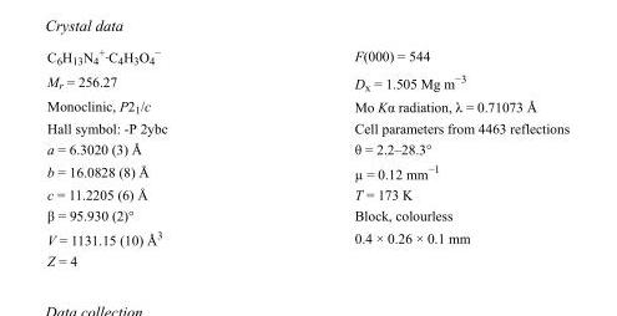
<table><tbody><tr><td>C<sub>6</sub>H<sub>13</sub>N<sub>4</sub> <sup>+</sup>·C<sub>4</sub>H<sub>3</sub>O<sub>4</sub> <sup>−</sup></td><td>F(000) = 544</td></tr><tr><td>M<sub>r</sub> = 256.27</td><td>D<sub>x</sub> = 1.505 Mg m<sup>−3</sup></td></tr><tr><td>Monoclinic, P2<sub>1</sub>/c</td><td>Mo Kα radiation, λ = 0.71073 Å</td></tr><tr><td>Hall symbol: -P 2ybc</td><td>Cell parameters from 4463 reflections</td></tr><tr><td>a = 6.3020 (3) Å</td><td>θ = 2.2–28.3°</td></tr><tr><td>b = 16.0828 (8) Å</td><td>µ = 0.12 mm<sup>−1</sup></td></tr><tr><td>c = 11.2205 (6) Å</td><td>T = 173 K</td></tr><tr><td>β = 95.930 (2)°</td><td>Block, colourless</td></tr><tr><td>V = 1131.15 (10) Å<sup>3</sup></td><td>0.4 × 0.26 × 0.1 mm</td></tr><tr><td>Z = 4</td><td></td></tr></tbody></table>